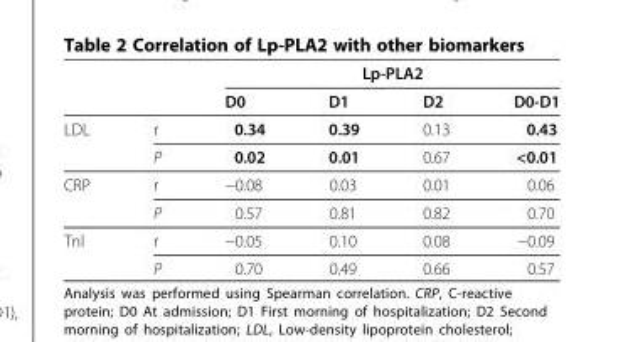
<table><thead><tr><td rowspan="2"></td><td rowspan="2"></td><td colspan="4">Lp-PLA2</td></tr><tr><td>D0</td><td>D1</td><td>D2</td><td>D0-D1</td></tr></thead><tbody><tr><td rowspan="2">LDL</td><td>r</td><td>0.34</td><td>0.39</td><td>0.13</td><td>0.43</td></tr><tr><td>P</td><td>0.02</td><td>0.01</td><td>0.67</td><td>&lt;0.01</td></tr><tr><td rowspan="2">CRP</td><td>r</td><td>−0.08</td><td>0.03</td><td>0.01</td><td>0.06</td></tr><tr><td>P</td><td>0.57</td><td>0.81</td><td>0.82</td><td>0.70</td></tr><tr><td rowspan="2">Tnl</td><td>r</td><td>−0.05</td><td>0.10</td><td>0.08</td><td>−0.09</td></tr><tr><td>P</td><td>0.70</td><td>0.49</td><td>0.66</td><td>0.57</td></tr></tbody></table>